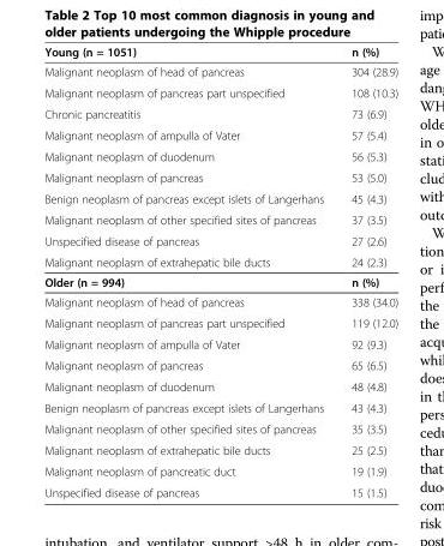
<table><thead><tr><td>Young (n = 1051)</td><td>n (%)</td></tr></thead><tbody><tr><td>Malignant neoplasm of head of pancreas</td><td>304 (28.9)</td></tr><tr><td>Malignant neoplasm of pancreas part unspecified</td><td>108 (10.3)</td></tr><tr><td>Chronic pancreatitis</td><td>73 (6.9)</td></tr><tr><td>Malignant neoplasm of ampulla of Vater</td><td>57 (5.4)</td></tr><tr><td>Malignant neoplasm of duodenum</td><td>56 (5.3)</td></tr><tr><td>Malignant neoplasm of pancreas</td><td>53 (5.0)</td></tr><tr><td>Benign neoplasm of pancreas except islets of Langerhans</td><td>45 (4.3)</td></tr><tr><td>Malignant neoplasm of other specified sites of pancreas</td><td>37 (3.5)</td></tr><tr><td>Unspecified disease of pancreas</td><td>27 (2.6)</td></tr><tr><td>Malignant neoplasm of extrahepatic bile ducts</td><td>24 (2.3)</td></tr><tr><td>Older (n = 994)</td><td>n (%)</td></tr><tr><td>Malignant neoplasm of head of pancreas</td><td>338 (34.0)</td></tr><tr><td>Malignant neoplasm of pancreas part unspecified</td><td>119 (12.0)</td></tr><tr><td>Malignant neoplasm of ampulla of Vater</td><td>92 (9.3)</td></tr><tr><td>Malignant neoplasm of pancreas</td><td>65 (6.5)</td></tr><tr><td>Malignant neoplasm of duodenum</td><td>48 (4.8)</td></tr><tr><td>Benign neoplasm of pancreas except islets of Langerhans</td><td>43 (4.3)</td></tr><tr><td>Malignant neoplasm of other specified sites of pancreas</td><td>35 (3.5)</td></tr><tr><td>Malignant neoplasm of extrahepatic bile ducts</td><td>25 (2.5)</td></tr><tr><td>Malignant neoplasm of pancreatic duct</td><td>19 (1.9)</td></tr><tr><td>Unspecified disease of pancreas</td><td>15 (1.5)</td></tr></tbody></table>